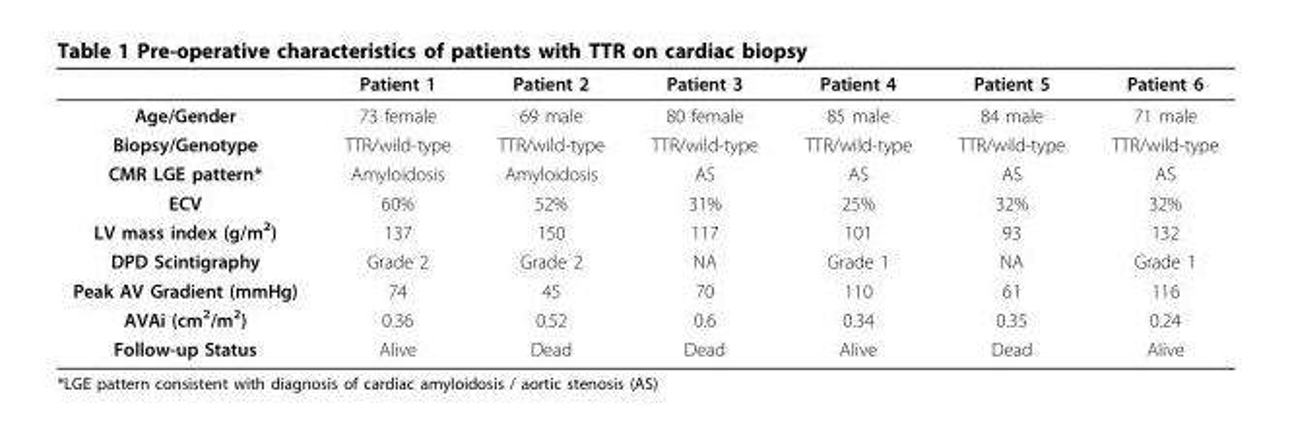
<table><thead><tr><td></td><td>Patient 1</td><td>Patient 2</td><td>Patient 3</td><td>Patient 4</td><td>Patient 5</td><td>Patient 6</td></tr></thead><tbody><tr><td>Age/Gender</td><td>73 female</td><td>69 male</td><td>80 female</td><td>85 male</td><td>84 male</td><td>71 male</td></tr><tr><td>Biopsy/Genotype</td><td>TTR/wild-type</td><td>TTR/wild-type</td><td>TTR/wild-type</td><td>TTR/wild-type</td><td>TTR/wild-type</td><td>TTR/wild-type</td></tr><tr><td>CMR LGE pattern*</td><td>Amyloidosis</td><td>Amyloidosis</td><td>AS</td><td>AS</td><td>AS</td><td>AS</td></tr><tr><td>ECV</td><td>60%</td><td>52%</td><td>31%</td><td>25%</td><td>32%</td><td>32%</td></tr><tr><td>LV mass index (g/m<sup>2</sup>)</td><td>137</td><td>150</td><td>117</td><td>101</td><td>93</td><td>132</td></tr><tr><td>DPD Scintigraphy</td><td>Grade 2</td><td>Grade 2</td><td>NA</td><td>Grade 1</td><td>NA</td><td>Grade 1</td></tr><tr><td>Peak AV Gradient (mmHg)</td><td>74</td><td>45</td><td>70</td><td>110</td><td>61</td><td>116</td></tr><tr><td>AVAi (cm<sup>2</sup>/m<sup>2</sup>)</td><td>0.36</td><td>0.52</td><td>0.6</td><td>0.34</td><td>0.35</td><td>0.24</td></tr><tr><td>Follow-up Status</td><td>Alive</td><td>Dead</td><td>Dead</td><td>Alive</td><td>Dead</td><td>Alive</td></tr></tbody></table>